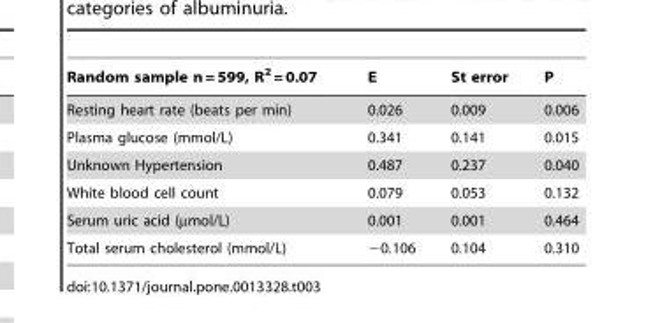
<table><thead><tr><td>Random sample n = 599, R<sup>2</sup> = 0.07</td><td>E</td><td>St error</td><td>P</td></tr></thead><tbody><tr><td>Resting heart rate (beats per min)</td><td>0.026</td><td>0.009</td><td>0.006</td></tr><tr><td>Plasma glucose (mmol/L)</td><td>0.341</td><td>0.141</td><td>0.015</td></tr><tr><td>Unknown Hypertension</td><td>0.487</td><td>0.237</td><td>0.040</td></tr><tr><td>White blood cell count</td><td>0.079</td><td>0.053</td><td>0.132</td></tr><tr><td>Serum uric acid (µmol/L)</td><td>0.001</td><td>0.001</td><td>0.464</td></tr><tr><td>Total serum cholesterol (mmol/L)</td><td>−0.106</td><td>0.104</td><td>0.310</td></tr></tbody></table>